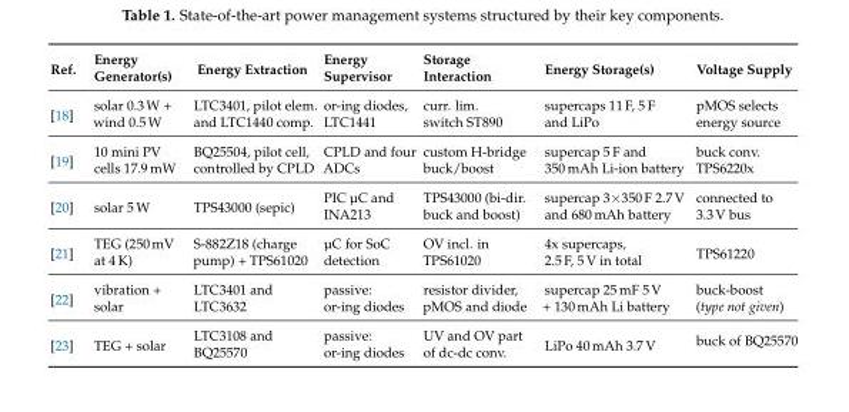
<table><thead><tr><td>Ref.</td><td>Energy Generator(s)</td><td>Energy Extraction</td><td>Energy Supervisor</td><td>Storage Interaction</td><td>Energy Storage(s)</td><td>Voltage Supply</td></tr></thead><tbody><tr><td>[18]</td><td>solar 0.3 W + wind 0.5 W</td><td>LTC3401, pilot elem. and LTC1440 comp.</td><td>or-ing diodes, LTC1441</td><td>curr. lim. switch ST890</td><td>supercaps 11 F, 5 F and LiPo</td><td>pMOS selects energy source</td></tr><tr><td>[19]</td><td>10 mini PV cells 17.9 mW</td><td>BQ25504, pilot cell, controlled by CPLD</td><td>CPLD and four ADCs</td><td>custom H-bridge buck/boost</td><td>supercap 5 F and 350 mAh Li-ion battery</td><td>buck conv. TPS6220x</td></tr><tr><td>[20]</td><td>solar 5 W</td><td>TPS43000 (sepic)</td><td>PIC µC and INA213</td><td>TPS43000 (bi-dir. buck and boost)</td><td>supercap 3×350 F 2.7 V and 680 mAh battery</td><td>connected to 3.3 V bus</td></tr><tr><td>[21]</td><td>TEG (250 mV at 4 K)</td><td>S-882Z18 (charge pump) + TPS61020</td><td>µC for SoC detection</td><td>OV incl. in TPS61020</td><td>4x supercaps, 2.5 F, 5 V in total</td><td>TPS61220</td></tr><tr><td>[22]</td><td>vibration + solar</td><td>LTC3401 and LTC3632</td><td>passive: or-ing diodes</td><td>resistor divider, pMOS and diode</td><td>supercap 25 mF 5 V + 130 mAh Li battery</td><td>buck-boost (type not given)</td></tr><tr><td>[23]</td><td>TEG + solar</td><td>LTC3108 and BQ25570</td><td>passive: or-ing diodes</td><td>UV and OV part of dc-dc conv.</td><td>LiPo 40 mAh 3.7 V</td><td>buck of BQ25570</td></tr></tbody></table>